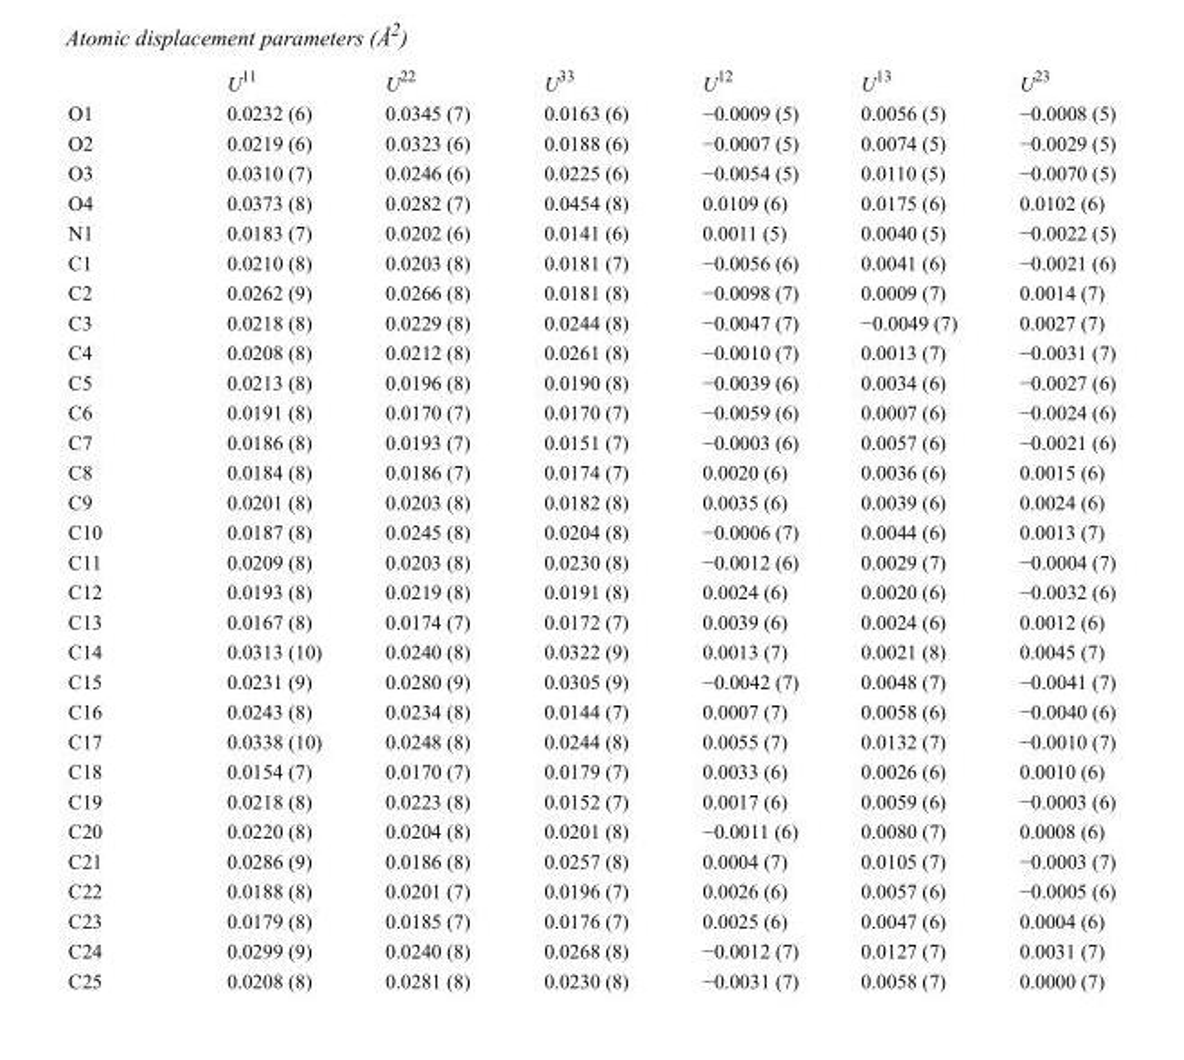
<table><thead><tr><td></td><td>U<sup>11</sup></td><td>U<sup>22</sup></td><td>U<sup>33</sup></td><td>U<sup>12</sup></td><td>U<sup>13</sup></td><td>U<sup>23</sup></td></tr></thead><tbody><tr><td>O1</td><td>0.0232 (6)</td><td>0.0345 (7)</td><td>0.0163 (6)</td><td>−0.0009 (5)</td><td>0.0056 (5)</td><td>−0.0008 (5)</td></tr><tr><td>O2</td><td>0.0219 (6)</td><td>0.0323 (6)</td><td>0.0188 (6)</td><td>−0.0007 (5)</td><td>0.0074 (5)</td><td>−0.0029 (5)</td></tr><tr><td>O3</td><td>0.0310 (7)</td><td>0.0246 (6)</td><td>0.0225 (6)</td><td>−0.0054 (5)</td><td>0.0110 (5)</td><td>−0.0070 (5)</td></tr><tr><td>O4</td><td>0.0373 (8)</td><td>0.0282 (7)</td><td>0.0454 (8)</td><td>0.0109 (6)</td><td>0.0175 (6)</td><td>0.0102 (6)</td></tr><tr><td>N1</td><td>0.0183 (7)</td><td>0.0202 (6)</td><td>0.0141 (6)</td><td>0.0011 (5)</td><td>0.0040 (5)</td><td>−0.0022 (5)</td></tr><tr><td>C1</td><td>0.0210 (8)</td><td>0.0203 (8)</td><td>0.0181 (7)</td><td>−0.0056 (6)</td><td>0.0041 (6)</td><td>−0.0021 (6)</td></tr><tr><td>C2</td><td>0.0262 (9)</td><td>0.0266 (8)</td><td>0.0181 (8)</td><td>−0.0098 (7)</td><td>0.0009 (7)</td><td>0.0014 (7)</td></tr><tr><td>C3</td><td>0.0218 (8)</td><td>0.0229 (8)</td><td>0.0244 (8)</td><td>−0.0047 (7)</td><td>−0.0049 (7)</td><td>0.0027 (7)</td></tr><tr><td>C4</td><td>0.0208 (8)</td><td>0.0212 (8)</td><td>0.0261 (8)</td><td>−0.0010 (7)</td><td>0.0013 (7)</td><td>−0.0031 (7)</td></tr><tr><td>C5</td><td>0.0213 (8)</td><td>0.0196 (8)</td><td>0.0190 (8)</td><td>−0.0039 (6)</td><td>0.0034 (6)</td><td>−0.0027 (6)</td></tr><tr><td>C6</td><td>0.0191 (8)</td><td>0.0170 (7)</td><td>0.0170 (7)</td><td>−0.0059 (6)</td><td>0.0007 (6)</td><td>−0.0024 (6)</td></tr><tr><td>C7</td><td>0.0186 (8)</td><td>0.0193 (7)</td><td>0.0151 (7)</td><td>−0.0003 (6)</td><td>0.0057 (6)</td><td>−0.0021 (6)</td></tr><tr><td>C8</td><td>0.0184 (8)</td><td>0.0186 (7)</td><td>0.0174 (7)</td><td>0.0020 (6)</td><td>0.0036 (6)</td><td>0.0015 (6)</td></tr><tr><td>C9</td><td>0.0201 (8)</td><td>0.0203 (8)</td><td>0.0182 (8)</td><td>0.0035 (6)</td><td>0.0039 (6)</td><td>0.0024 (6)</td></tr><tr><td>C10</td><td>0.0187 (8)</td><td>0.0245 (8)</td><td>0.0204 (8)</td><td>−0.0006 (7)</td><td>0.0044 (6)</td><td>0.0013 (7)</td></tr><tr><td>C11</td><td>0.0209 (8)</td><td>0.0203 (8)</td><td>0.0230 (8)</td><td>−0.0012 (6)</td><td>0.0029 (7)</td><td>−0.0004 (7)</td></tr><tr><td>C12</td><td>0.0193 (8)</td><td>0.0219 (8)</td><td>0.0191 (8)</td><td>0.0024 (6)</td><td>0.0020 (6)</td><td>−0.0032 (6)</td></tr><tr><td>C13</td><td>0.0167 (8)</td><td>0.0174 (7)</td><td>0.0172 (7)</td><td>0.0039 (6)</td><td>0.0024 (6)</td><td>0.0012 (6)</td></tr><tr><td>C14</td><td>0.0313 (10)</td><td>0.0240 (8)</td><td>0.0322 (9)</td><td>0.0013 (7)</td><td>0.0021 (8)</td><td>0.0045 (7)</td></tr><tr><td>C15</td><td>0.0231 (9)</td><td>0.0280 (9)</td><td>0.0305 (9)</td><td>−0.0042 (7)</td><td>0.0048 (7)</td><td>−0.0041 (7)</td></tr><tr><td>C16</td><td>0.0243 (8)</td><td>0.0234 (8)</td><td>0.0144 (7)</td><td>0.0007 (7)</td><td>0.0058 (6)</td><td>−0.0040 (6)</td></tr><tr><td>C17</td><td>0.0338 (10)</td><td>0.0248 (8)</td><td>0.0244 (8)</td><td>0.0055 (7)</td><td>0.0132 (7)</td><td>−0.0010 (7)</td></tr><tr><td>C18</td><td>0.0154 (7)</td><td>0.0170 (7)</td><td>0.0179 (7)</td><td>0.0033 (6)</td><td>0.0026 (6)</td><td>0.0010 (6)</td></tr><tr><td>C19</td><td>0.0218 (8)</td><td>0.0223 (8)</td><td>0.0152 (7)</td><td>0.0017 (6)</td><td>0.0059 (6)</td><td>−0.0003 (6)</td></tr><tr><td>C20</td><td>0.0220 (8)</td><td>0.0204 (8)</td><td>0.0201 (8)</td><td>−0.0011 (6)</td><td>0.0080 (7)</td><td>0.0008 (6)</td></tr><tr><td>C21</td><td>0.0286 (9)</td><td>0.0186 (8)</td><td>0.0257 (8)</td><td>0.0004 (7)</td><td>0.0105 (7)</td><td>−0.0003 (7)</td></tr><tr><td>C22</td><td>0.0188 (8)</td><td>0.0201 (7)</td><td>0.0196 (7)</td><td>0.0026 (6)</td><td>0.0057 (6)</td><td>−0.0005 (6)</td></tr><tr><td>C23</td><td>0.0179 (8)</td><td>0.0185 (7)</td><td>0.0176 (7)</td><td>0.0025 (6)</td><td>0.0047 (6)</td><td>0.0004 (6)</td></tr><tr><td>C24</td><td>0.0299 (9)</td><td>0.0240 (8)</td><td>0.0268 (8)</td><td>−0.0012 (7)</td><td>0.0127 (7)</td><td>0.0031 (7)</td></tr><tr><td>C25</td><td>0.0208 (8)</td><td>0.0281 (8)</td><td>0.0230 (8)</td><td>−0.0031 (7)</td><td>0.0058 (7)</td><td>0.0000 (7)</td></tr></tbody></table>